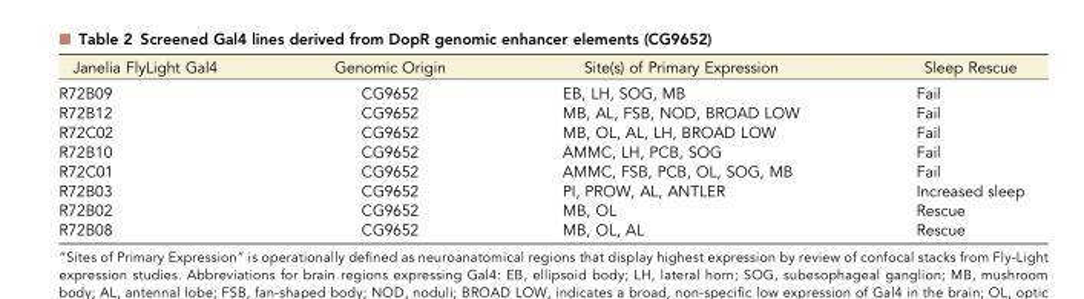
<table><thead><tr><td>Janelia FlyLight Gal4</td><td>Genomic Origin</td><td>Site(s) of Primary Expression</td><td>Sleep Rescue</td></tr></thead><tbody><tr><td>R72B09</td><td>CG9652</td><td>EB, LH, SOG, MB</td><td>Fail</td></tr><tr><td>R72B12</td><td>CG9652</td><td>MB, AL, FSB, NOD, BROAD LOW</td><td>Fail</td></tr><tr><td>R72C02</td><td>CG9652</td><td>MB, OL, AL, LH, BROAD LOW</td><td>Fail</td></tr><tr><td>R72B10</td><td>CG9652</td><td>AMMC, LH, PCB, SOG</td><td>Fail</td></tr><tr><td>R72C01</td><td>CG9652</td><td>AMMC, FSB, PCB, OL, SOG, MB</td><td>Fail</td></tr><tr><td>R72B03</td><td>CG9652</td><td>PI, PROW, AL, ANTLER</td><td>Increased sleep</td></tr><tr><td>R72B02</td><td>CG9652</td><td>MB, OL</td><td>Rescue</td></tr><tr><td>R72B08</td><td>CG9652</td><td>MB, OL, AL</td><td>Rescue</td></tr></tbody></table>